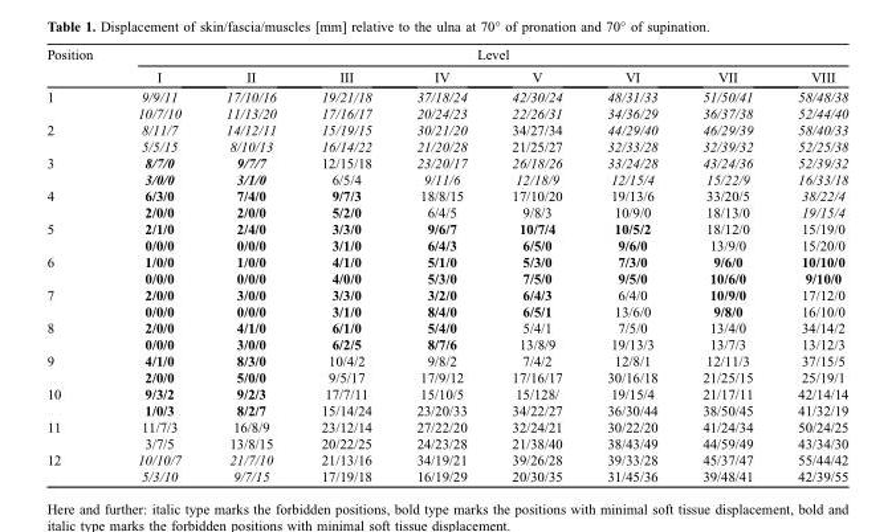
<table><thead><tr><td rowspan="2">Position</td><td colspan="8">Level</td></tr><tr><td>I</td><td>II</td><td>III</td><td>IV</td><td>V</td><td>VI</td><td>VII</td><td>VIII</td></tr></thead><tbody><tr><td rowspan="2">1</td><td>9/9/11</td><td>17/10/16</td><td>19/21/18</td><td>37/18/24</td><td>42/30/24</td><td>48/31/33</td><td>51/50/41</td><td>58/48/38</td></tr><tr><td>10/7/10</td><td>11/13/20</td><td>17/16/17</td><td>20/24/23</td><td>22/26/31</td><td>34/36/29</td><td>36/37/38</td><td>52/44/40</td></tr><tr><td rowspan="2">2</td><td>8/11/7</td><td>14/12/11</td><td>15/19/15</td><td>30/21/20</td><td>34/27/34</td><td>44/29/40</td><td>46/29/39</td><td>58/40/33</td></tr><tr><td>5/5/15</td><td>8/10/13</td><td>16/14/22</td><td>21/20/28</td><td>21/25/27</td><td>32/33/28</td><td>32/39/32</td><td>52/25/38</td></tr><tr><td rowspan="2">3</td><td>8/7/0</td><td>9/7/7</td><td>12/15/18</td><td>23/20/17</td><td>26/18/26</td><td>33/24/28</td><td>43/24/36</td><td>52/39/32</td></tr><tr><td>3/0/0</td><td>3/1/0</td><td>6/5/4</td><td>9/11/6</td><td>12/18/9</td><td>12/15/4</td><td>15/22/9</td><td>16/33/18</td></tr><tr><td rowspan="2">4</td><td>6/3/0</td><td>7/4/0</td><td>9/7/3</td><td>18/8/15</td><td>17/10/20</td><td>19/13/6</td><td>33/20/5</td><td>38/22/4</td></tr><tr><td>2/0/0</td><td>2/0/0</td><td>5/2/0</td><td>6/4/5</td><td>9/8/3</td><td>10/9/0</td><td>18/13/0</td><td>19/15/4</td></tr><tr><td rowspan="2">5</td><td>2/1/0</td><td>2/4/0</td><td>3/3/0</td><td>9/6/7</td><td>10/7/4</td><td>10/5/2</td><td>18/12/0</td><td>15/19/0</td></tr><tr><td>0/0/0</td><td>0/0/0</td><td>3/1/0</td><td>6/4/3</td><td>6/5/0</td><td>9/6/0</td><td>13/9/0</td><td>15/20/0</td></tr><tr><td rowspan="2">6</td><td>1/0/0</td><td>1/0/0</td><td>4/1/0</td><td>5/1/0</td><td>5/3/0</td><td>7/3/0</td><td>9/6/0</td><td>10/10/0</td></tr><tr><td>0/0/0</td><td>0/0/0</td><td>4/0/0</td><td>5/3/0</td><td>7/5/0</td><td>9/5/0</td><td>10/6/0</td><td>9/10/0</td></tr><tr><td rowspan="2">7</td><td>2/0/0</td><td>3/0/0</td><td>3/3/0</td><td>3/2/0</td><td>6/4/3</td><td>6/4/0</td><td>10/9/0</td><td>17/12/0</td></tr><tr><td>0/0/0</td><td>0/0/0</td><td>3/1/0</td><td>8/4/0</td><td>6/5/1</td><td>13/6/0</td><td>9/8/0</td><td>16/10/0</td></tr><tr><td rowspan="2">8</td><td>2/0/0</td><td>4/1/0</td><td>6/1/0</td><td>5/4/0</td><td>5/4/1</td><td>7/5/0</td><td>13/4/0</td><td>34/14/2</td></tr><tr><td>0/0/0</td><td>3/0/0</td><td>6/2/5</td><td>8/7/6</td><td>13/8/9</td><td>19/13/3</td><td>13/7/3</td><td>13/12/3</td></tr><tr><td rowspan="2">9</td><td>4/1/0</td><td>8/3/0</td><td>10/4/2</td><td>9/8/2</td><td>7/4/2</td><td>12/8/1</td><td>12/11/3</td><td>37/15/5</td></tr><tr><td>2/0/0</td><td>5/0/0</td><td>9/5/17</td><td>17/9/12</td><td>17/16/17</td><td>30/16/18</td><td>21/25/15</td><td>25/19/1</td></tr><tr><td rowspan="2">10</td><td>9/3/2</td><td>9/2/3</td><td>17/7/11</td><td>15/10/5</td><td>15/128/</td><td>19/15/4</td><td>21/17/11</td><td>42/14/14</td></tr><tr><td>1/0/3</td><td>8/2/7</td><td>15/14/24</td><td>23/20/33</td><td>34/22/27</td><td>36/30/44</td><td>38/50/45</td><td>41/32/19</td></tr><tr><td rowspan="2">11</td><td>11/7/3</td><td>16/8/9</td><td>23/12/14</td><td>27/22/20</td><td>32/24/21</td><td>30/22/20</td><td>41/24/34</td><td>50/24/25</td></tr><tr><td>3/7/5</td><td>13/8/15</td><td>20/22/25</td><td>24/23/28</td><td>21/38/40</td><td>38/43/49</td><td>44/59/49</td><td>43/34/30</td></tr><tr><td rowspan="2">12</td><td>10/10/7</td><td>21/7/10</td><td>21/13/16</td><td>34/19/21</td><td>39/26/28</td><td>39/33/28</td><td>45/37/47</td><td>55/44/42</td></tr><tr><td>5/3/10</td><td>9/7/15</td><td>17/19/18</td><td>16/19/29</td><td>20/30/35</td><td>31/45/36</td><td>39/48/41</td><td>42/39/55</td></tr></tbody></table>